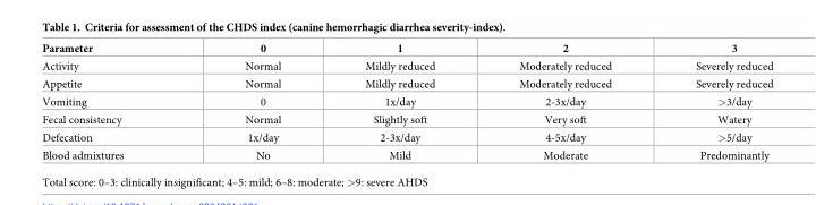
<table><thead><tr><td>Parameter</td><td>0</td><td>1</td><td>2</td><td>3</td></tr></thead><tbody><tr><td>Activity</td><td>Normal</td><td>Mildly reduced</td><td>Moderately reduced</td><td>Severely reduced</td></tr><tr><td>Appetite</td><td>Normal</td><td>Mildly reduced</td><td>Moderately reduced</td><td>Severely reduced</td></tr><tr><td>Vomiting</td><td>0</td><td>1x/day</td><td>2-3x/day</td><td>&gt;3/day</td></tr><tr><td>Fecal consistency</td><td>Normal</td><td>Slightly soft</td><td>Very soft</td><td>Watery</td></tr><tr><td>Defecation</td><td>1x/day</td><td>2-3x/day</td><td>4-5x/day</td><td>&gt;5/day</td></tr><tr><td>Blood admixtures</td><td>No</td><td>Mild</td><td>Moderate</td><td>Predominantly</td></tr></tbody></table>